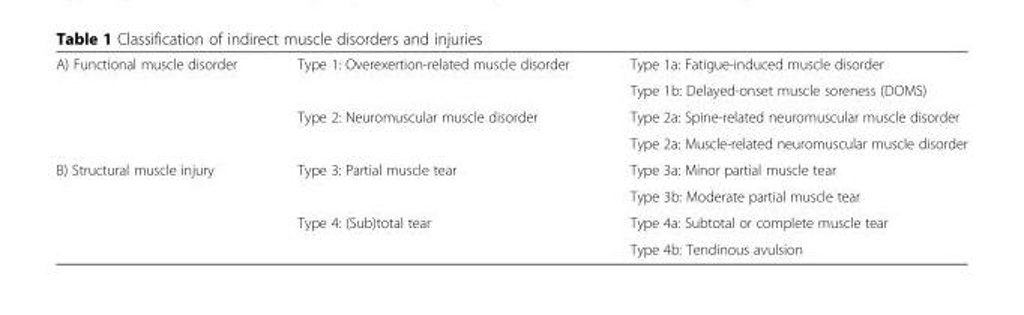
<table><tbody><tr><td rowspan="4">A) Functional muscle disorder</td><td rowspan="2">Type 1: Overexertion-related muscle disorder</td><td>Type 1a: Fatigue-induced muscle disorder</td></tr><tr><td>Type 1b: Delayed-onset muscle soreness (DOMS)</td></tr><tr><td rowspan="2">Type 2: Neuromuscular muscle disorder</td><td>Type 2a: Spine-related neuromuscular muscle disorder</td></tr><tr><td>Type 2a: Muscle-related neuromuscular muscle disorder</td></tr><tr><td rowspan="4">B) Structural muscle injury</td><td rowspan="2">Type 3: Partial muscle tear</td><td>Type 3a: Minor partial muscle tear</td></tr><tr><td>Type 3b: Moderate partial muscle tear</td></tr><tr><td rowspan="2">Type 4: (Sub)total tear</td><td>Type 4a: Subtotal or complete muscle tear</td></tr><tr><td>Type 4b: Tendinous avulsion</td></tr></tbody></table>